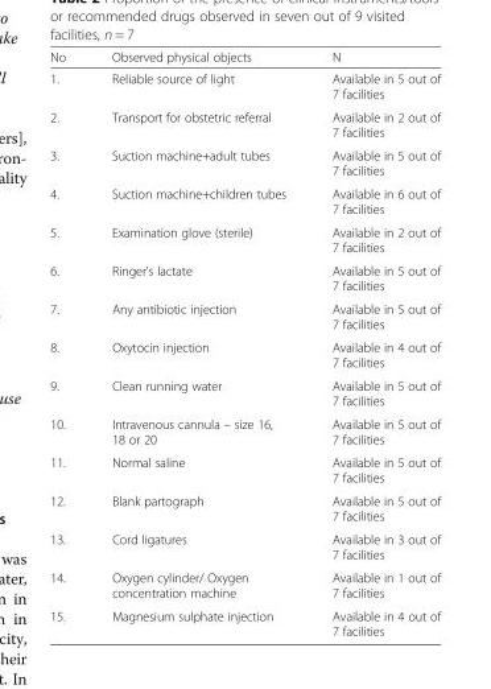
<table><thead><tr><td>No</td><td>Observed physical objects</td><td>N</td></tr></thead><tbody><tr><td>1.</td><td>Reliable source of light</td><td>Available in 5 out of 7 facilities</td></tr><tr><td>2.</td><td>Transport for obstetric referral</td><td>Available in 2 out of 7 facilities</td></tr><tr><td>3.</td><td>Suction machine+adult tubes</td><td>Available in 5 out of 7 facilities</td></tr><tr><td>4.</td><td>Suction machine+children tubes</td><td>Available in 6 out of 7 facilities</td></tr><tr><td>5.</td><td>Examination glove (sterile)</td><td>Available in 2 out of 7 facilities</td></tr><tr><td>6.</td><td>Ringer’s lactate</td><td>Available in 5 out of 7 facilities</td></tr><tr><td>7.</td><td>Any antibiotic injection</td><td>Available in 5 out of 7 facilities</td></tr><tr><td>8.</td><td>Oxytocin injection</td><td>Available in 4 out of 7 facilities</td></tr><tr><td>9.</td><td>Clean running water</td><td>Available in 5 out of 7 facilities</td></tr><tr><td>10.</td><td>Intravenous cannula – size 16, 18 or 20</td><td>Available in 5 out of 7 facilities</td></tr><tr><td>11.</td><td>Normal saline</td><td>Available in 5 out of 7 facilities</td></tr><tr><td>12.</td><td>Blank partograph</td><td>Available in 5 out of 7 facilities</td></tr><tr><td>13.</td><td>Cord ligatures</td><td>Available in 3 out of 7 facilities</td></tr><tr><td>14.</td><td>Oxygen cylinder/ Oxygen concentration machine</td><td>Available in 1 out of 7 facilities</td></tr><tr><td>15.</td><td>Magnesium sulphate injection</td><td>Available in 4 out of 7 facilities</td></tr></tbody></table>